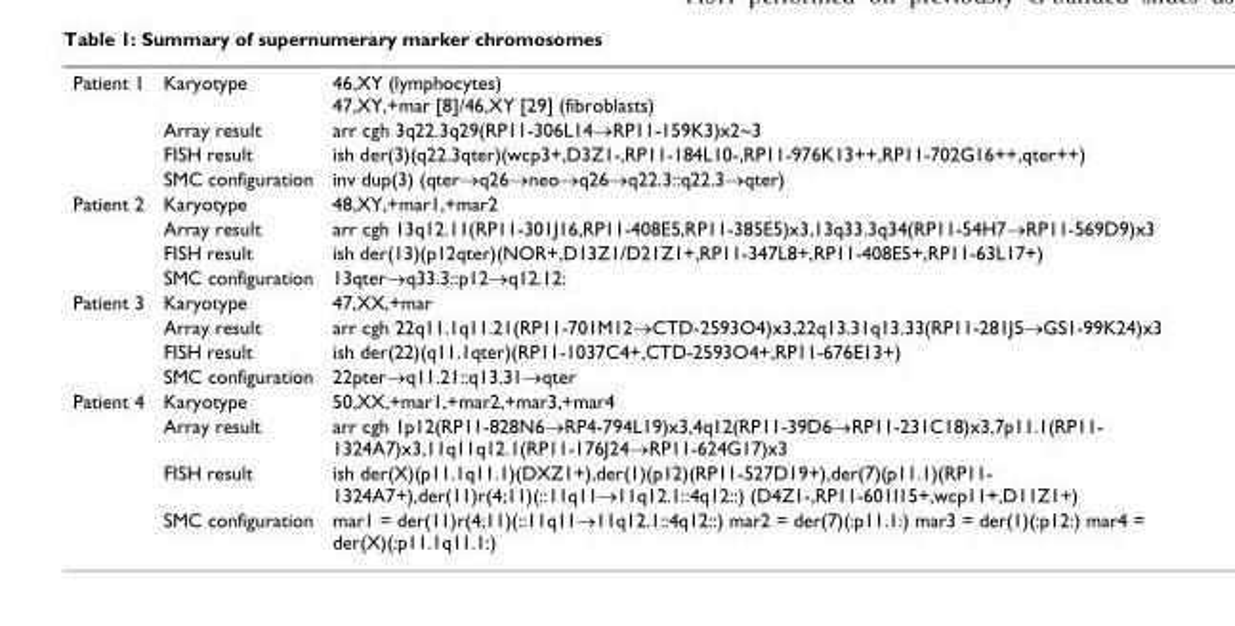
<table><tbody><tr><td rowspan="4">Patient 1</td><td>Karyotype</td><td>46,XY (lymphocytes) 47,XY,+mar [8]/46,XY [29] (fibroblasts)</td></tr><tr><td>Array result</td><td>arr cgh 3q22.3q29(RP11-306L14→RP11-159K3)x2~3</td></tr><tr><td>FISH result</td><td>ish der(3)(q22.3qter)(wcp3+,D3Z1-,RP11-184L10-,RP11-976K13++,RP11-702G16++,qter++)</td></tr><tr><td>SMC configuration</td><td>inv dup(3) (qter→q26→neo→q26→q22.3::q22.3→qter)</td></tr><tr><td rowspan="4">Patient 2</td><td>Karyotype</td><td>48,XY,+mar1,+mar2</td></tr><tr><td>Array result</td><td>arr cgh 13q12.11(RP11-301J16,RP11-408E5,RP11-385E5)x3,13q33.3q34(RP11-54H7→RP11-569D9)x3</td></tr><tr><td>FISH result</td><td>ish der(13)(p12qter)(NOR+,D13Z1/D21Z1+,RP11-347L8+,RP11-408E5+,RP11-63L17+)</td></tr><tr><td>SMC configuration</td><td>13qter→q33.3::p12→q12.12:</td></tr><tr><td rowspan="4">Patient 3</td><td>Karyotype</td><td>47,XX,+mar</td></tr><tr><td>Array result</td><td>arr cgh 22q11.1q11.21(RP11-701M12→CTD-2593O4)x3,22q13.31q13.33(RP11-281J5→GS1-99K24)x3</td></tr><tr><td>FISH result</td><td>ish der(22)(q11.1qter)(RP11-1037C4+,CTD-2593O4+,RP11-676E13+)</td></tr><tr><td>SMC configuration</td><td>22pter→q11.21::q13.31→qter</td></tr><tr><td rowspan="4">Patient 4</td><td>Karyotype</td><td>50,XX,+mar1,+mar2,+mar3,+mar4</td></tr><tr><td>Array result</td><td>arr cgh 1p12(RP11-828N6→RP4-794L19)x3,4q12(RP11-39D6→RP11-231C18)x3,7p11.1(RP11- 1324A7)x3,11q11q12.1(RP11-176J24→RP11-624G17)x3</td></tr><tr><td>FISH result</td><td>ish der(X)(p11.1q11.1)(DXZ1+),der(1)(p12)(RP11-527D19+),der(7)(p11.1)(RP11- 1324A7+),der(11)r(4;11)(::11q11→11q12.1::4q12::) (D4Z1-,RP11-601I15+,wcp11+,D11Z1+)</td></tr><tr><td>SMC configuration</td><td>mar1 = der(11)r(4;11)(::11q11→11q12.1::4q12::) mar2 = der(7)(:p11.1:) mar3 = der(1)(:p12:) mar4 = der(X)(:p11.1q11.1:)</td></tr></tbody></table>